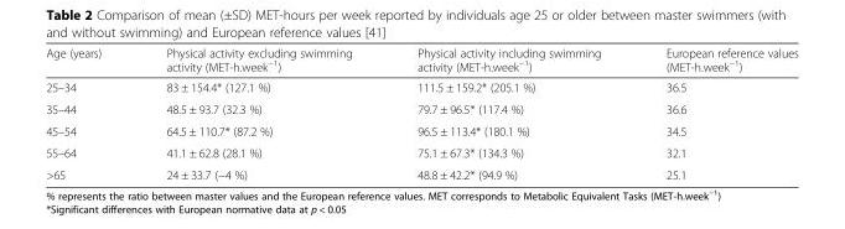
<table><thead><tr><td>Age (years)</td><td>Physical activity excluding swimming activity (MET-h.week<sup>−1</sup>)</td><td>Physical activity including swimming activity (MET-h.week<sup>−1</sup>)</td><td>European reference values (MET-h.week<sup>−1</sup>)</td></tr></thead><tbody><tr><td>25–34</td><td>83 ± 154.4* (127.1 %)</td><td>111.5 ± 159.2* (205.1 %)</td><td>36.5</td></tr><tr><td>35–44</td><td>48.5 ± 93.7 (32.3 %)</td><td>79.7 ± 96.5* (117.4 %)</td><td>36.6</td></tr><tr><td>45–54</td><td>64.5 ± 110.7* (87.2 %)</td><td>96.5 ± 113.4* (180.1 %)</td><td>34.5</td></tr><tr><td>55–64</td><td>41.1 ± 62.8 (28.1 %)</td><td>75.1 ± 67.3* (134.3 %)</td><td>32.1</td></tr><tr><td>&gt;65</td><td>24 ± 33.7 (−4 %)</td><td>48.8 ± 42.2* (94.9 %)</td><td>25.1</td></tr></tbody></table>